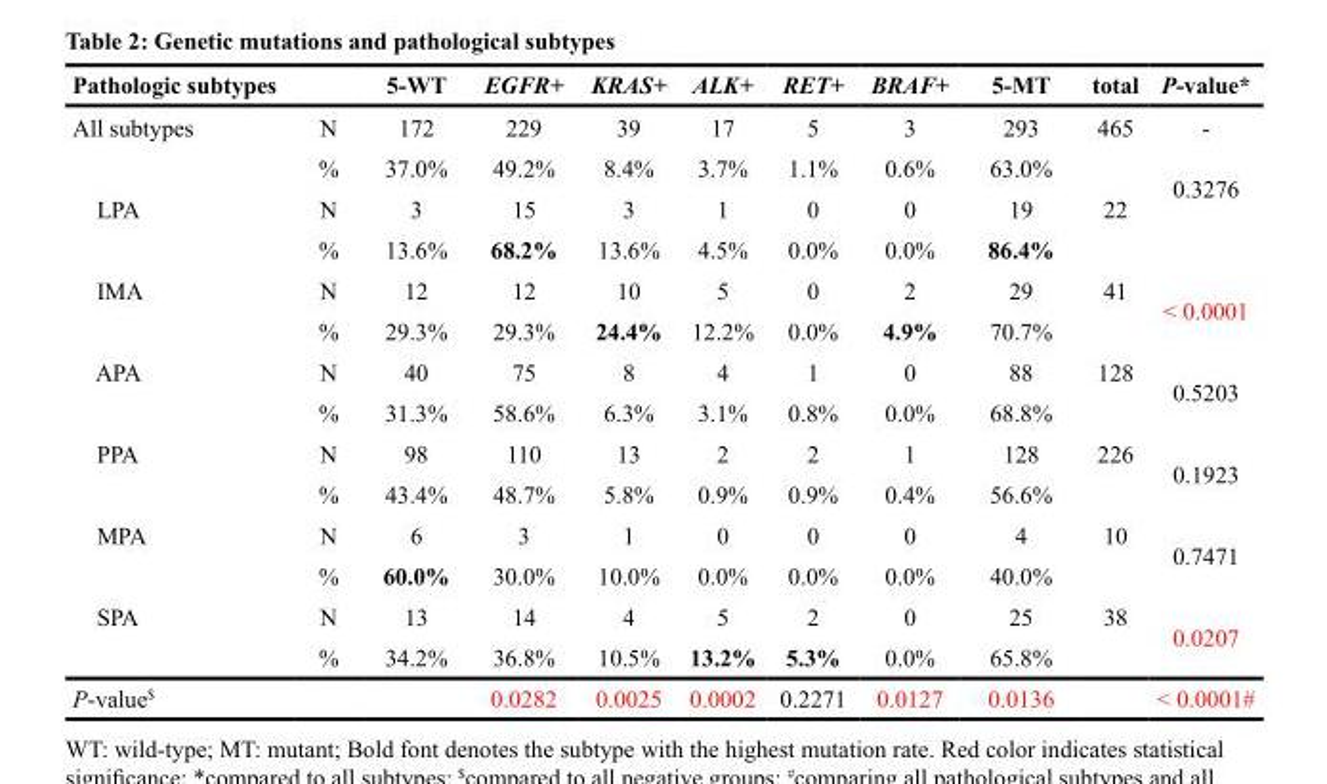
<table><thead><tr><td>Pathologic subtypes</td><td></td><td>5-WT</td><td>EGFR+</td><td>KRAS+</td><td>ALK+</td><td>RET+</td><td>BRAF+</td><td>5-MT</td><td>total</td><td>P-value*</td></tr></thead><tbody><tr><td rowspan="2">All subtypes</td><td>N</td><td>172</td><td>229</td><td>39</td><td>17</td><td>5</td><td>3</td><td>293</td><td>465</td><td>-</td></tr><tr><td>%</td><td>37.0%</td><td>49.2%</td><td>8.4%</td><td>3.7%</td><td>1.1%</td><td>0.6%</td><td>63.0%</td><td></td><td rowspan="2">0.3276</td></tr><tr><td rowspan="2">LPA</td><td>N</td><td>3</td><td>15</td><td>3</td><td>1</td><td>0</td><td>0</td><td>19</td><td>22</td></tr><tr><td>%</td><td>13.6%</td><td>68.2%</td><td>13.6%</td><td>4.5%</td><td>0.0%</td><td>0.0%</td><td>86.4%</td><td></td><td></td></tr><tr><td rowspan="2">IMA</td><td>N</td><td>12</td><td>12</td><td>10</td><td>5</td><td>0</td><td>2</td><td>29</td><td>41</td><td rowspan="2">&lt; 0.0001</td></tr><tr><td>%</td><td>29.3%</td><td>29.3%</td><td>24.4%</td><td>12.2%</td><td>0.0%</td><td>4.9%</td><td>70.7%</td><td></td></tr><tr><td rowspan="2">APA</td><td>N</td><td>40</td><td>75</td><td>8</td><td>4</td><td>1</td><td>0</td><td>88</td><td>128</td><td rowspan="2">0.5203</td></tr><tr><td>%</td><td>31.3%</td><td>58.6%</td><td>6.3%</td><td>3.1%</td><td>0.8%</td><td>0.0%</td><td>68.8%</td><td></td></tr><tr><td rowspan="2">PPA</td><td>N</td><td>98</td><td>110</td><td>13</td><td>2</td><td>2</td><td>1</td><td>128</td><td>226</td><td rowspan="2">0.1923</td></tr><tr><td>%</td><td>43.4%</td><td>48.7%</td><td>5.8%</td><td>0.9%</td><td>0.9%</td><td>0.4%</td><td>56.6%</td><td></td></tr><tr><td rowspan="2">MPA</td><td>N</td><td>6</td><td>3</td><td>1</td><td>0</td><td>0</td><td>0</td><td>4</td><td>10</td><td rowspan="2">0.7471</td></tr><tr><td>%</td><td>60.0%</td><td>30.0%</td><td>10.0%</td><td>0.0%</td><td>0.0%</td><td>0.0%</td><td>40.0%</td><td></td></tr><tr><td rowspan="2">SPA</td><td>N</td><td>13</td><td>14</td><td>4</td><td>5</td><td>2</td><td>0</td><td>25</td><td>38</td><td rowspan="2">0.0207</td></tr><tr><td>%</td><td>34.2%</td><td>36.8%</td><td>10.5%</td><td>13.2%</td><td>5.3%</td><td>0.0%</td><td>65.8%</td><td></td></tr><tr><td>P-value<sup>$</sup></td><td></td><td></td><td>0.0282</td><td>0.0025</td><td>0.0002</td><td>0.2271</td><td>0.0127</td><td>0.0136</td><td></td><td>&lt; 0.0001#</td></tr></tbody></table>